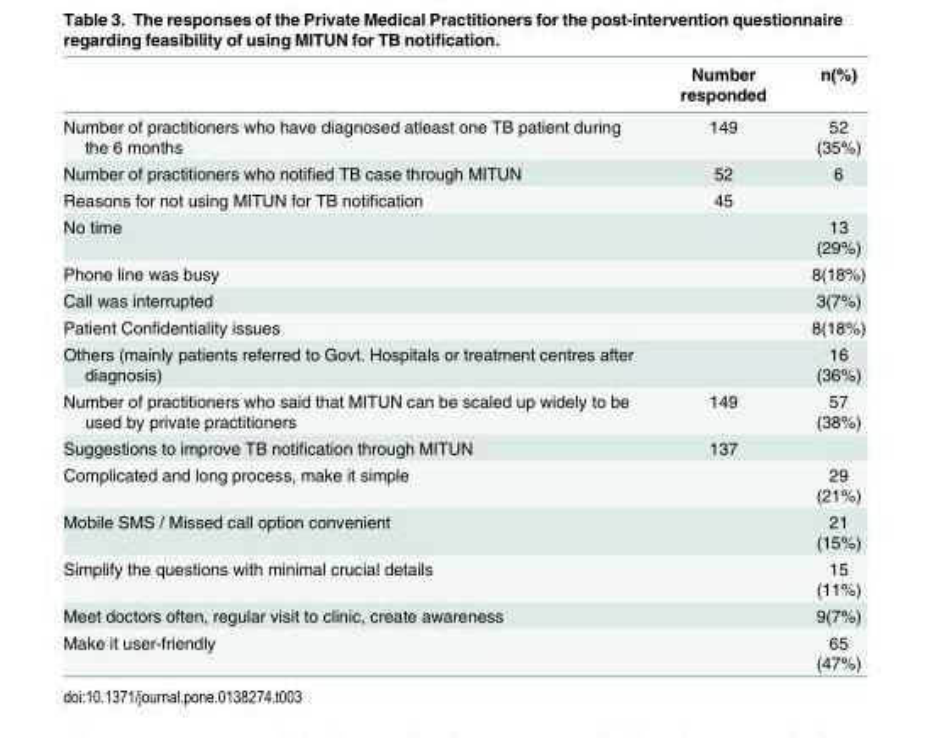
<table><thead><tr><td></td><td>Number responded</td><td>n(%)</td></tr></thead><tbody><tr><td>Number of practitioners who have diagnosed atleast one TB patient during the 6 months</td><td>149</td><td>52 (35%)</td></tr><tr><td>Number of practitioners who notified TB case through MITUN</td><td>52</td><td>6</td></tr><tr><td>Reasons for not using MITUN for TB notification</td><td>45</td><td></td></tr><tr><td>No time</td><td></td><td>13 (29%)</td></tr><tr><td>Phone line was busy</td><td></td><td>8(18%)</td></tr><tr><td>Call was interrupted</td><td></td><td>3(7%)</td></tr><tr><td>Patient Confidentiality issues</td><td></td><td>8(18%)</td></tr><tr><td>Others (mainly patients referred to Govt. Hospitals or treatment centres after diagnosis)</td><td></td><td>16 (36%)</td></tr><tr><td>Number of practitioners who said that MITUN can be scaled up widely to be used by private practitioners</td><td>149</td><td>57 (38%)</td></tr><tr><td>Suggestions to improve TB notification through MITUN</td><td>137</td><td></td></tr><tr><td>Complicated and long process, make it simple</td><td></td><td>29 (21%)</td></tr><tr><td>Mobile SMS / Missed call option convenient</td><td></td><td>21 (15%)</td></tr><tr><td>Simplify the questions with minimal crucial details</td><td></td><td>15 (11%)</td></tr><tr><td>Meet doctors often, regular visit to clinic, create awareness</td><td></td><td>9(7%)</td></tr><tr><td>Make it user-friendly</td><td></td><td>65 (47%)</td></tr></tbody></table>